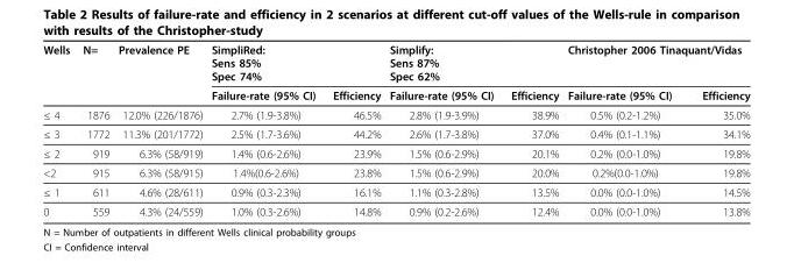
<table><thead><tr><td rowspan="2">Wells</td><td rowspan="2">N=</td><td rowspan="2">Prevalence PE</td><td colspan="2">SimpliRed: Sens 85% Spec 74%</td><td colspan="2">Simplify: Sens 87% Spec 62%</td><td colspan="2">Christopher 2006 Tinaquant/Vidas</td></tr><tr><td>Failure-rate (95% CI)</td><td>Efficiency</td><td>Failure-rate (95% CI)</td><td>Efficiency</td><td>Failure-rate (95% CI)</td><td>Efficiency</td></tr></thead><tbody><tr><td>≤ 4</td><td>1876</td><td>12.0% (226/1876)</td><td>2.7% (1.9-3.8%)</td><td>46.5%</td><td>2.8% (1.9-3.9%)</td><td>38.9%</td><td>0.5% (0.2-1.2%)</td><td>35.0%</td></tr><tr><td>≤ 3</td><td>1772</td><td>11.3% (201/1772)</td><td>2.5% (1.7-3.6%)</td><td>44.2%</td><td>2.6% (1.7-3.8%)</td><td>37.0%</td><td>0.4% (0.1-1.1%)</td><td>34.1%</td></tr><tr><td>≤ 2</td><td>919</td><td>6.3% (58/919)</td><td>1.4% (0.6-2.6%)</td><td>23.9%</td><td>1.5% (0.6-2.9%)</td><td>20.1%</td><td>0.2% (0.0-1.0%)</td><td>19.8%</td></tr><tr><td>&lt;2</td><td>915</td><td>6.3% (58/915)</td><td>1.4%(0.6-2.6%)</td><td>23.8%</td><td>1.5% (0.6-2.9%)</td><td>20.0%</td><td>0.2%(0.0-1.0%)</td><td>19.8%</td></tr><tr><td>≤ 1</td><td>611</td><td>4.6% (28/611)</td><td>0.9% (0.3-2.3%)</td><td>16.1%</td><td>1.1% (0.3-2.8%)</td><td>13.5%</td><td>0.0% (0.0-1.0%)</td><td>14.5%</td></tr><tr><td>0</td><td>559</td><td>4.3% (24/559)</td><td>1.0% (0.3-2.6%)</td><td>14.8%</td><td>0.9% (0.2-2.6%)</td><td>12.4%</td><td>0.0% (0.0-1.0%)</td><td>13.8%</td></tr></tbody></table>